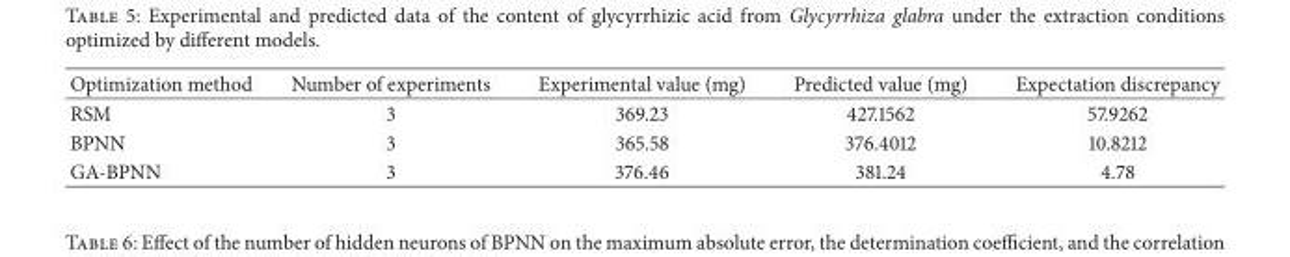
<table><thead><tr><td>Optimization method</td><td>Number of experiments</td><td>Experimental value (mg)</td><td>Predicted value (mg)</td><td>Expectation discrepancy</td></tr></thead><tbody><tr><td>RSM</td><td>3</td><td>369.23</td><td>427.1562</td><td>57.9262</td></tr><tr><td>BPNN</td><td>3</td><td>365.58</td><td>376.4012</td><td>10.8212</td></tr><tr><td>GA-BPNN</td><td>3</td><td>376.46</td><td>381.24</td><td>4.78</td></tr></tbody></table>